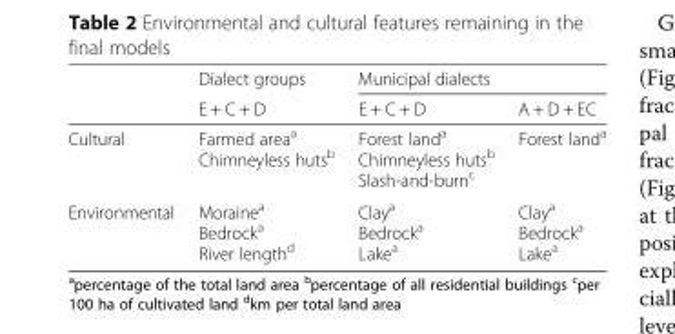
<table><thead><tr><td rowspan="2"></td><td rowspan="2">Dialect groups E + C + D</td><td colspan="2">Municipal dialects</td></tr><tr><td>E + C + D</td><td>A + D + EC</td></tr></thead><tbody><tr><td>Cultural</td><td>Farmed area<sup>a</sup> Chimneyless huts<sup>b</sup></td><td>Forest land<sup>a</sup> Chimneyless huts<sup>b</sup> Slash-and-burn<sup>c</sup></td><td>Forest land<sup>a</sup></td></tr><tr><td>Environmental</td><td>Moraine<sup>a</sup> Bedrock<sup>a</sup> River length<sup>d</sup></td><td>Clay<sup>a</sup> Bedrock<sup>a</sup> Lake<sup>a</sup></td><td>Clay<sup>a</sup> Bedrock<sup>a</sup> Lake<sup>a</sup></td></tr></tbody></table>